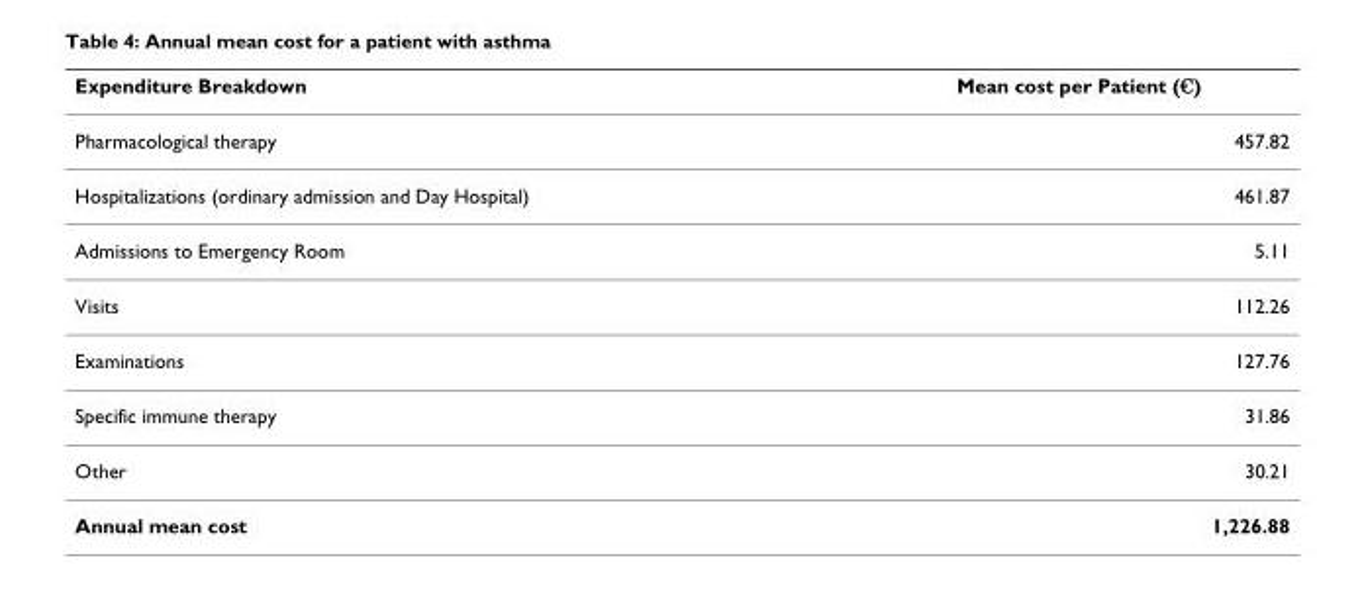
<table><thead><tr><td>Expenditure Breakdown</td><td>Mean cost per Patient (€)</td></tr></thead><tbody><tr><td>Pharmacological therapy</td><td>457.82</td></tr><tr><td>Hospitalizations (ordinary admission and Day Hospital)</td><td>461.87</td></tr><tr><td>Admissions to Emergency Room</td><td>5.11</td></tr><tr><td>Visits</td><td>112.26</td></tr><tr><td>Examinations</td><td>127.76</td></tr><tr><td>Specific immune therapy</td><td>31.86</td></tr><tr><td>Other</td><td>30.21</td></tr><tr><td>Annual mean cost</td><td>1,226.88</td></tr></tbody></table>